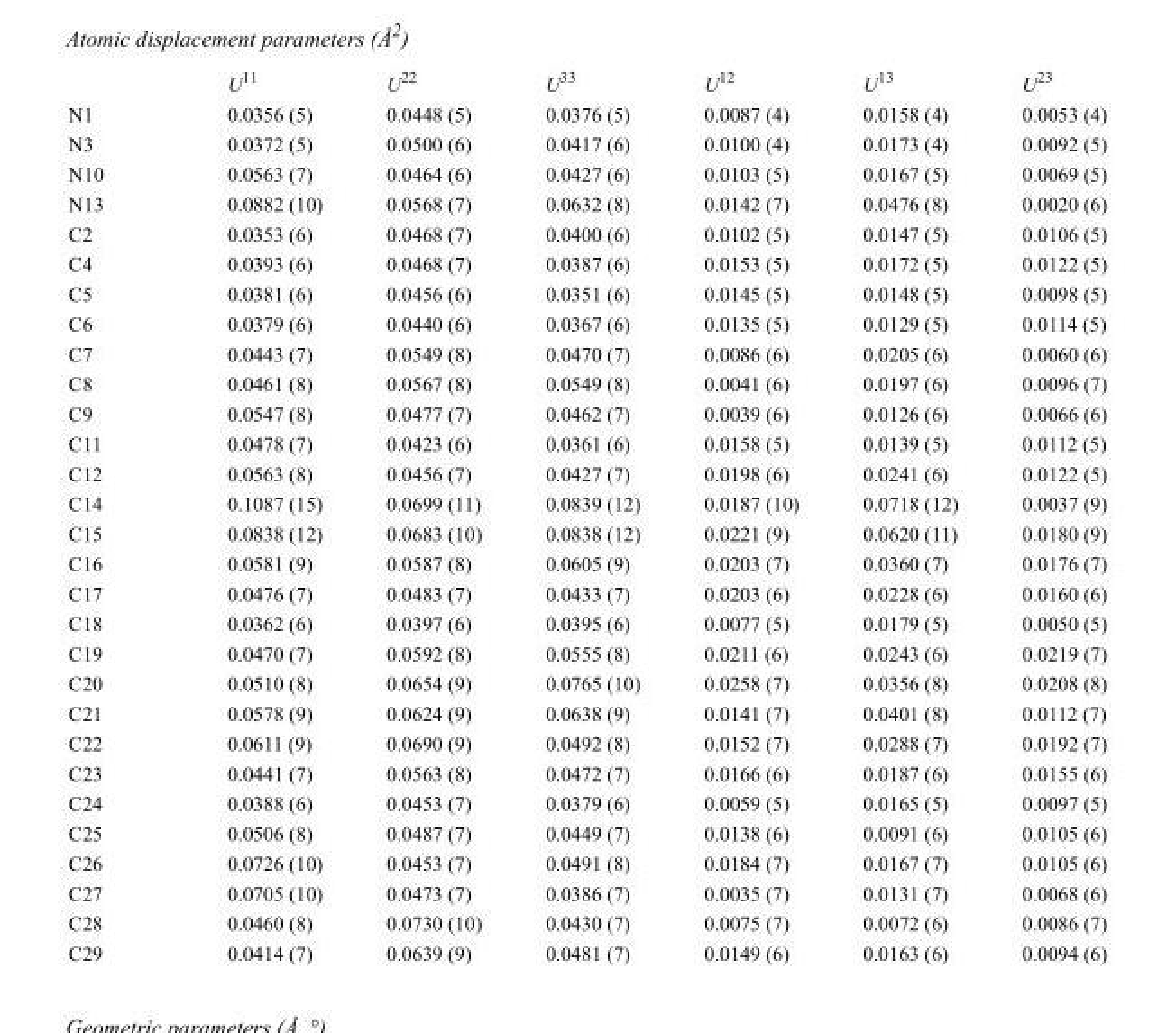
<table><thead><tr><td></td><td>U<sup>11</sup></td><td>U<sup>22</sup></td><td>U<sup>33</sup></td><td>U<sup>12</sup></td><td>U<sup>13</sup></td><td>U<sup>23</sup></td></tr></thead><tbody><tr><td>N1</td><td>0.0356 (5)</td><td>0.0448 (5)</td><td>0.0376 (5)</td><td>0.0087 (4)</td><td>0.0158 (4)</td><td>0.0053 (4)</td></tr><tr><td>N3</td><td>0.0372 (5)</td><td>0.0500 (6)</td><td>0.0417 (6)</td><td>0.0100 (4)</td><td>0.0173 (4)</td><td>0.0092 (5)</td></tr><tr><td>N10</td><td>0.0563 (7)</td><td>0.0464 (6)</td><td>0.0427 (6)</td><td>0.0103 (5)</td><td>0.0167 (5)</td><td>0.0069 (5)</td></tr><tr><td>N13</td><td>0.0882 (10)</td><td>0.0568 (7)</td><td>0.0632 (8)</td><td>0.0142 (7)</td><td>0.0476 (8)</td><td>0.0020 (6)</td></tr><tr><td>C2</td><td>0.0353 (6)</td><td>0.0468 (7)</td><td>0.0400 (6)</td><td>0.0102 (5)</td><td>0.0147 (5)</td><td>0.0106 (5)</td></tr><tr><td>C4</td><td>0.0393 (6)</td><td>0.0468 (7)</td><td>0.0387 (6)</td><td>0.0153 (5)</td><td>0.0172 (5)</td><td>0.0122 (5)</td></tr><tr><td>C5</td><td>0.0381 (6)</td><td>0.0456 (6)</td><td>0.0351 (6)</td><td>0.0145 (5)</td><td>0.0148 (5)</td><td>0.0098 (5)</td></tr><tr><td>C6</td><td>0.0379 (6)</td><td>0.0440 (6)</td><td>0.0367 (6)</td><td>0.0135 (5)</td><td>0.0129 (5)</td><td>0.0114 (5)</td></tr><tr><td>C7</td><td>0.0443 (7)</td><td>0.0549 (8)</td><td>0.0470 (7)</td><td>0.0086 (6)</td><td>0.0205 (6)</td><td>0.0060 (6)</td></tr><tr><td>C8</td><td>0.0461 (8)</td><td>0.0567 (8)</td><td>0.0549 (8)</td><td>0.0041 (6)</td><td>0.0197 (6)</td><td>0.0096 (7)</td></tr><tr><td>C9</td><td>0.0547 (8)</td><td>0.0477 (7)</td><td>0.0462 (7)</td><td>0.0039 (6)</td><td>0.0126 (6)</td><td>0.0066 (6)</td></tr><tr><td>C11</td><td>0.0478 (7)</td><td>0.0423 (6)</td><td>0.0361 (6)</td><td>0.0158 (5)</td><td>0.0139 (5)</td><td>0.0112 (5)</td></tr><tr><td>C12</td><td>0.0563 (8)</td><td>0.0456 (7)</td><td>0.0427 (7)</td><td>0.0198 (6)</td><td>0.0241 (6)</td><td>0.0122 (5)</td></tr><tr><td>C14</td><td>0.1087 (15)</td><td>0.0699 (11)</td><td>0.0839 (12)</td><td>0.0187 (10)</td><td>0.0718 (12)</td><td>0.0037 (9)</td></tr><tr><td>C15</td><td>0.0838 (12)</td><td>0.0683 (10)</td><td>0.0838 (12)</td><td>0.0221 (9)</td><td>0.0620 (11)</td><td>0.0180 (9)</td></tr><tr><td>C16</td><td>0.0581 (9)</td><td>0.0587 (8)</td><td>0.0605 (9)</td><td>0.0203 (7)</td><td>0.0360 (7)</td><td>0.0176 (7)</td></tr><tr><td>C17</td><td>0.0476 (7)</td><td>0.0483 (7)</td><td>0.0433 (7)</td><td>0.0203 (6)</td><td>0.0228 (6)</td><td>0.0160 (6)</td></tr><tr><td>C18</td><td>0.0362 (6)</td><td>0.0397 (6)</td><td>0.0395 (6)</td><td>0.0077 (5)</td><td>0.0179 (5)</td><td>0.0050 (5)</td></tr><tr><td>C19</td><td>0.0470 (7)</td><td>0.0592 (8)</td><td>0.0555 (8)</td><td>0.0211 (6)</td><td>0.0243 (6)</td><td>0.0219 (7)</td></tr><tr><td>C20</td><td>0.0510 (8)</td><td>0.0654 (9)</td><td>0.0765 (10)</td><td>0.0258 (7)</td><td>0.0356 (8)</td><td>0.0208 (8)</td></tr><tr><td>C21</td><td>0.0578 (9)</td><td>0.0624 (9)</td><td>0.0638 (9)</td><td>0.0141 (7)</td><td>0.0401 (8)</td><td>0.0112 (7)</td></tr><tr><td>C22</td><td>0.0611 (9)</td><td>0.0690 (9)</td><td>0.0492 (8)</td><td>0.0152 (7)</td><td>0.0288 (7)</td><td>0.0192 (7)</td></tr><tr><td>C23</td><td>0.0441 (7)</td><td>0.0563 (8)</td><td>0.0472 (7)</td><td>0.0166 (6)</td><td>0.0187 (6)</td><td>0.0155 (6)</td></tr><tr><td>C24</td><td>0.0388 (6)</td><td>0.0453 (7)</td><td>0.0379 (6)</td><td>0.0059 (5)</td><td>0.0165 (5)</td><td>0.0097 (5)</td></tr><tr><td>C25</td><td>0.0506 (8)</td><td>0.0487 (7)</td><td>0.0449 (7)</td><td>0.0138 (6)</td><td>0.0091 (6)</td><td>0.0105 (6)</td></tr><tr><td>C26</td><td>0.0726 (10)</td><td>0.0453 (7)</td><td>0.0491 (8)</td><td>0.0184 (7)</td><td>0.0167 (7)</td><td>0.0105 (6)</td></tr><tr><td>C27</td><td>0.0705 (10)</td><td>0.0473 (7)</td><td>0.0386 (7)</td><td>0.0035 (7)</td><td>0.0131 (7)</td><td>0.0068 (6)</td></tr><tr><td>C28</td><td>0.0460 (8)</td><td>0.0730 (10)</td><td>0.0430 (7)</td><td>0.0075 (7)</td><td>0.0072 (6)</td><td>0.0086 (7)</td></tr><tr><td>C29</td><td>0.0414 (7)</td><td>0.0639 (9)</td><td>0.0481 (7)</td><td>0.0149 (6)</td><td>0.0163 (6)</td><td>0.0094 (6)</td></tr></tbody></table>